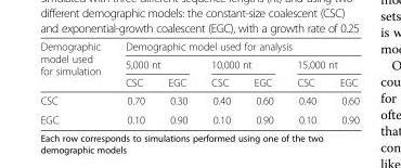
<table><thead><tr><td rowspan="3">Demographic model used for simulation</td><td colspan="6">Demographic model used for analysis</td></tr><tr><td colspan="2">5,000 nt</td><td colspan="2">10,000 nt</td><td colspan="2">15,000 nt</td></tr><tr><td>CSC</td><td>EGC</td><td>CSC</td><td>EGC</td><td>CSC</td><td>EGC</td></tr></thead><tbody><tr><td>CSC</td><td>0.70</td><td>0.30</td><td>0.40</td><td>0.60</td><td>0.40</td><td>0.60</td></tr><tr><td>EGC</td><td>0.10</td><td>0.90</td><td>0.10</td><td>0.90</td><td>0.10</td><td>0.90</td></tr></tbody></table>